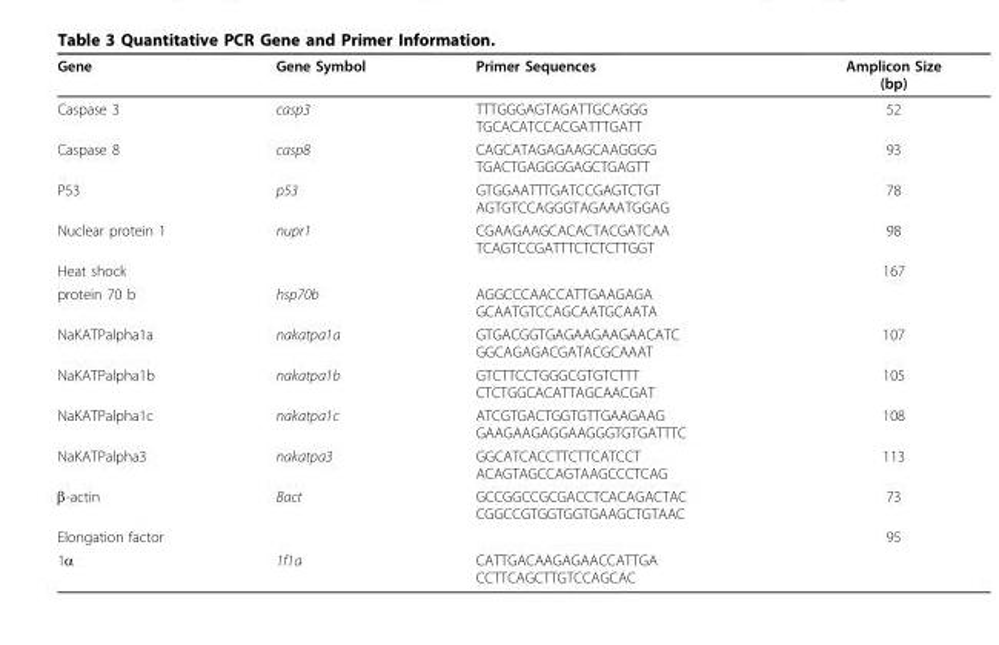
<table><thead><tr><td>Gene</td><td>Gene Symbol</td><td>Primer Sequences</td><td>Amplicon Size (bp)</td></tr></thead><tbody><tr><td>Caspase 3</td><td>casp3</td><td>TTTGGGAGTAGATTGCAGGG TGCACATCCACGATTTGATT</td><td>52</td></tr><tr><td>Caspase 8</td><td>casp8</td><td>CAGCATAGAGAAGCAAGGGG TGACTGAGGGGAGCTGAGTT</td><td>93</td></tr><tr><td>P53</td><td>p53</td><td>GTGGAATTTGATCCGAGTCTGT AGTGTCCAGGGTAGAAATGGAG</td><td>78</td></tr><tr><td>Nuclear protein 1</td><td>nupr1</td><td>CGAAGAAGCACACTACGATCAA TCAGTCCGATTTCTCTCTTGGT</td><td>98</td></tr><tr><td>Heat shock</td><td></td><td></td><td>167</td></tr><tr><td>protein 70 b</td><td>hsp70b</td><td>AGGCCCAACCATTGAAGAGA GCAATGTCCAGCAATGCAATA</td><td></td></tr><tr><td>NaKATPalpha1a</td><td>nakatpa1a</td><td>GTGACGGTGAGAAGAAGAACATC GGCAGAGACGATACGCAAAT</td><td>107</td></tr><tr><td>NaKATPalpha1b</td><td>nakatpa1b</td><td>GTCTTCCTGGGCGTGTCTTT CTCTGGCACATTAGCAACGAT</td><td>105</td></tr><tr><td>NaKATPalpha1c</td><td>nakatpa1c</td><td>ATCGTGACTGGTGTTGAAGAAG GAAGAAGAGGAAGGGTGTGATTTC</td><td>108</td></tr><tr><td>NaKATPalpha3</td><td>nakatpa3</td><td>GGCATCACCTTCTTCATCCT ACAGTAGCCAGTAAGCCCTCAG</td><td>113</td></tr><tr><td>β-actin</td><td>Bact</td><td>GCCGGCCGCGACCTCACAGACTAC CGGCCGTGGTGGTGAAGCTGTAAC</td><td>73</td></tr><tr><td>Elongation factor</td><td></td><td></td><td>95</td></tr><tr><td>1α</td><td>1f1a</td><td>CATTGACAAGAGAACCATTGA CCTTCAGCTTGTCCAGCAC</td><td></td></tr></tbody></table>